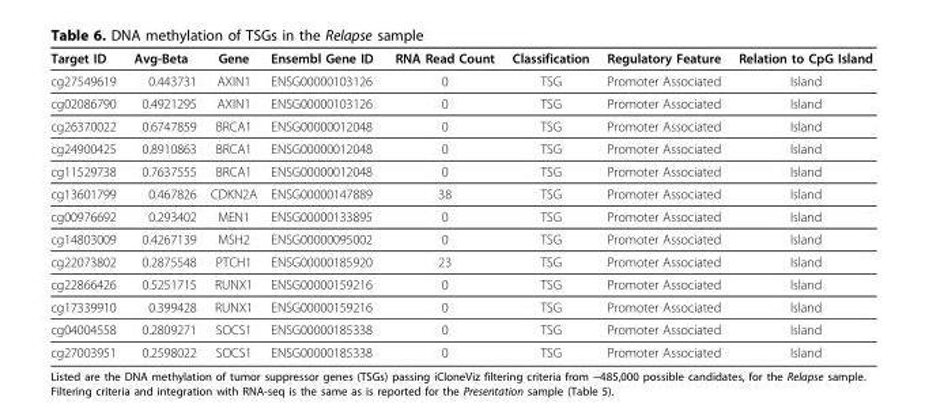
<table><thead><tr><td>Target ID</td><td>Avg-Beta</td><td>Gene</td><td>Ensembl Gene ID</td><td>RNA Read Count</td><td>Classification</td><td>Regulatory Feature</td><td>Relation to CpG Island</td></tr></thead><tbody><tr><td>cg27549619</td><td>0.443731</td><td>AXIN1</td><td>ENSG00000103126</td><td>0</td><td>TSG</td><td>Promoter Associated</td><td>Island</td></tr><tr><td>cg02086790</td><td>0.4921295</td><td>AXIN1</td><td>ENSG00000103126</td><td>0</td><td>TSG</td><td>Promoter Associated</td><td>Island</td></tr><tr><td>cg26370022</td><td>0.6747859</td><td>BRCA1</td><td>ENSG00000012048</td><td>0</td><td>TSG</td><td>Promoter Associated</td><td>Island</td></tr><tr><td>cg24900425</td><td>0.8910863</td><td>BRCA1</td><td>ENSG00000012048</td><td>0</td><td>TSG</td><td>Promoter Associated</td><td>Island</td></tr><tr><td>cg11529738</td><td>0.7637555</td><td>BRCA1</td><td>ENSG00000012048</td><td>0</td><td>TSG</td><td>Promoter Associated</td><td>Island</td></tr><tr><td>cg13601799</td><td>0.467826</td><td>CDKN2A</td><td>ENSG00000147889</td><td>38</td><td>TSG</td><td>Promoter Associated</td><td>Island</td></tr><tr><td>cg00976692</td><td>0.293402</td><td>MEN1</td><td>ENSG00000133895</td><td>0</td><td>TSG</td><td>Promoter Associated</td><td>Island</td></tr><tr><td>cg14803009</td><td>0.4267139</td><td>MSH2</td><td>ENSG00000095002</td><td>0</td><td>TSG</td><td>Promoter Associated</td><td>Island</td></tr><tr><td>cg22073802</td><td>0.2875548</td><td>PTCH1</td><td>ENSG00000185920</td><td>23</td><td>TSG</td><td>Promoter Associated</td><td>Island</td></tr><tr><td>cg22866426</td><td>0.5251715</td><td>RUNX1</td><td>ENSG00000159216</td><td>0</td><td>TSG</td><td>Promoter Associated</td><td>Island</td></tr><tr><td>cg17339910</td><td>0.399428</td><td>RUNX1</td><td>ENSG00000159216</td><td>0</td><td>TSG</td><td>Promoter Associated</td><td>Island</td></tr><tr><td>cg04004558</td><td>0.2809271</td><td>SOCS1</td><td>ENSG00000185338</td><td>0</td><td>TSG</td><td>Promoter Associated</td><td>Island</td></tr><tr><td>cg27003951</td><td>0.2598022</td><td>SOCS1</td><td>ENSG00000185338</td><td>0</td><td>TSG</td><td>Promoter Associated</td><td>Island</td></tr></tbody></table>